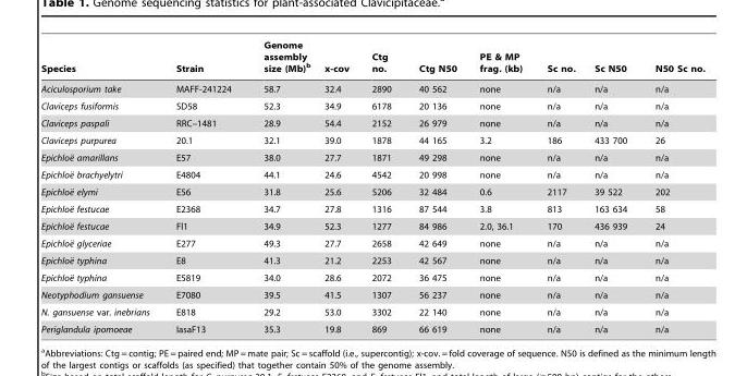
<table><thead><tr><td>Species</td><td>Strain</td><td>Genome assembly size (Mb)<sup>b</sup></td><td>x-cov</td><td>Ctg no.</td><td>Ctg N50</td><td>PE &amp; MP frag. (kb)</td><td>Sc no.</td><td>Sc N50</td><td>N50 Sc no.</td></tr></thead><tbody><tr><td>Aciculosporium take</td><td>MAFF-241224</td><td>58.7</td><td>32.4</td><td>2890</td><td>40 562</td><td>none</td><td>n/a</td><td>n/a</td><td>n/a</td></tr><tr><td>Claviceps fusiformis</td><td>SD58</td><td>52.3</td><td>34.9</td><td>6178</td><td>20 136</td><td>none</td><td>n/a</td><td>n/a</td><td>n/a</td></tr><tr><td>Claviceps paspali</td><td>RRC–1481</td><td>28.9</td><td>54.4</td><td>2152</td><td>26 979</td><td>none</td><td>n/a</td><td>n/a</td><td>n/a</td></tr><tr><td>Claviceps purpurea</td><td>20.1</td><td>32.1</td><td>39.0</td><td>1878</td><td>44 165</td><td>3.2</td><td>186</td><td>433 700</td><td>26</td></tr><tr><td>Epichloe¨ amarillans</td><td>E57</td><td>38.0</td><td>27.7</td><td>1871</td><td>49 298</td><td>none</td><td>n/a</td><td>n/a</td><td>n/a</td></tr><tr><td>Epichloe¨ brachyelytri</td><td>E4804</td><td>44.1</td><td>24.6</td><td>4542</td><td>20 998</td><td>none</td><td>n/a</td><td>n/a</td><td>n/a</td></tr><tr><td>Epichloe¨ elymi</td><td>E56</td><td>31.8</td><td>25.6</td><td>5206</td><td>32 484</td><td>0.6</td><td>2117</td><td>39 522</td><td>202</td></tr><tr><td>Epichloe¨ festucae</td><td>E2368</td><td>34.7</td><td>27.8</td><td>1316</td><td>87 544</td><td>3.8</td><td>813</td><td>163 634</td><td>58</td></tr><tr><td>Epichloe¨ festucae</td><td>Fl1</td><td>34.9</td><td>52.3</td><td>1277</td><td>84 986</td><td>2.0, 36.1</td><td>170</td><td>436 939</td><td>24</td></tr><tr><td>Epichloe¨ glyceriae</td><td>E277</td><td>49.3</td><td>27.7</td><td>2658</td><td>42 649</td><td>none</td><td>n/a</td><td>n/a</td><td>n/a</td></tr><tr><td>Epichloe¨ typhina</td><td>E8</td><td>41.3</td><td>21.2</td><td>2253</td><td>42 567</td><td>none</td><td>n/a</td><td>n/a</td><td>n/a</td></tr><tr><td>Epichloe¨ typhina</td><td>E5819</td><td>34.0</td><td>28.6</td><td>2072</td><td>36 475</td><td>none</td><td>n/a</td><td>n/a</td><td>n/a</td></tr><tr><td>Neotyphodium gansuense</td><td>E7080</td><td>39.5</td><td>41.5</td><td>1307</td><td>56 237</td><td>none</td><td>n/a</td><td>n/a</td><td>n/a</td></tr><tr><td>N. gansuense var. inebrians</td><td>E818</td><td>29.2</td><td>53.0</td><td>3302</td><td>22 140</td><td>none</td><td>n/a</td><td>n/a</td><td>n/a</td></tr><tr><td>Periglandula ipomoeae</td><td>IasaF13</td><td>35.3</td><td>19.8</td><td>869</td><td>66 619</td><td>none</td><td>n/a</td><td>n/a</td><td>n/a</td></tr></tbody></table>